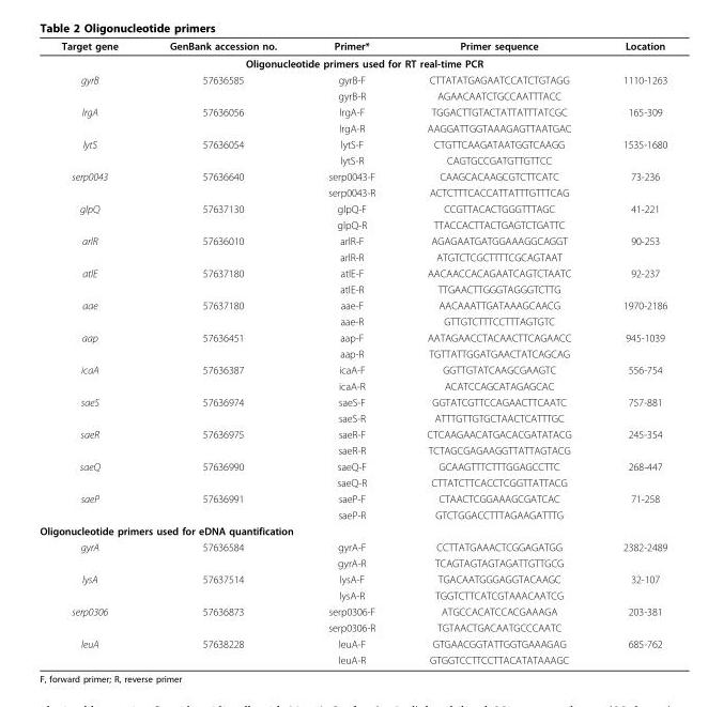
<table><thead><tr><td>Target gene</td><td>GenBank accession no.</td><td>Primer*</td><td>Primer sequence</td><td>Location</td></tr></thead><tbody><tr><td colspan="5">Oligonucleotide primers used for RT real-time PCR</td></tr><tr><td rowspan="2">gyrB</td><td>57636585</td><td>gyrB-F</td><td>CTTATATGAGAATCCATCTGTAGG</td><td>1110-1263</td></tr><tr><td></td><td>gyrB-R</td><td>AGAACAATCTGCCAATTTACC</td><td></td></tr><tr><td rowspan="2">lrgA</td><td>57636056</td><td>lrgA-F</td><td>TGGACTTGTACTATTATTTATCGC</td><td>165-309</td></tr><tr><td></td><td>lrgA-R</td><td>AAGGATTGGTAAAGAGTTAATGAC</td><td></td></tr><tr><td rowspan="2">lytS</td><td>57636054</td><td>lytS-F</td><td>CTGTTCAAGATAATGGTCAAGG</td><td>1535-1680</td></tr><tr><td></td><td>lytS-R</td><td>CAGTGCCGATGTTGTTCC</td><td></td></tr><tr><td rowspan="2">serp0043</td><td>57636640</td><td>serp0043-F</td><td>CAAGCACAAGCGTCTTCATC</td><td>73-236</td></tr><tr><td></td><td>serp0043-R</td><td>ACTCTTTCACCATTATTTGTTTCAG</td><td></td></tr><tr><td rowspan="2">glpQ</td><td>57637130</td><td>glpQ-F</td><td>CCGTTACACTGGGTTTAGC</td><td>41-221</td></tr><tr><td></td><td>glpQ-R</td><td>TTACCACTTACTGAGTCTGATTC</td><td></td></tr><tr><td rowspan="2">arlR</td><td>57636010</td><td>arlR-F</td><td>AGAGAATGATGGAAAGGCAGGT</td><td>90-253</td></tr><tr><td></td><td>arlR-R</td><td>ATGTCTCGCTTTTCGCAGTAAT</td><td></td></tr><tr><td rowspan="2">atlE</td><td>57637180</td><td>atlE-F</td><td>AACAACCACAGAATCAGTCTAATC</td><td>92-237</td></tr><tr><td></td><td>atlE-R</td><td>TTGAACTTGGGTAGGGTCTTG</td><td></td></tr><tr><td rowspan="2">aae</td><td>57637180</td><td>aae-F</td><td>AACAAATTGATAAAGCAACG</td><td>1970-2186</td></tr><tr><td></td><td>aae-R</td><td>GTTGTCTTTCCTTTAGTGTC</td><td></td></tr><tr><td rowspan="2">aap</td><td>57636451</td><td>aap-F</td><td>AATAGAACCTACAACTTCAGAACC</td><td>945-1039</td></tr><tr><td></td><td>aap-R</td><td>TGTTATTGGATGAACTATCAGCAG</td><td></td></tr><tr><td rowspan="2">icaA</td><td>57636387</td><td>icaA-F</td><td>GGTTGTATCAAGCGAAGTC</td><td>556-754</td></tr><tr><td></td><td>icaA-R</td><td>ACATCCAGCATAGAGCAC</td><td></td></tr><tr><td rowspan="2">saeS</td><td>57636974</td><td>saeS-F</td><td>GGTATCGTTCCAGAACTTCAATC</td><td>757-881</td></tr><tr><td></td><td>saeS-R</td><td>ATTTGTTGTGCTAACTCATTTGC</td><td></td></tr><tr><td rowspan="2">saeR</td><td>57636975</td><td>saeR-F</td><td>CTCAAGAACATGACACGATATACG</td><td>245-354</td></tr><tr><td></td><td>saeR-R</td><td>TCTAGCGAGAAGGTTATTAGTACG</td><td></td></tr><tr><td rowspan="2">saeQ</td><td>57636990</td><td>saeQ-F</td><td>GCAAGTTTCTTTGGAGCCTTC</td><td>268-447</td></tr><tr><td></td><td>saeQ-R</td><td>CTTATCTTCACCTCGGTTATTACG</td><td></td></tr><tr><td rowspan="2">saeP</td><td>57636991</td><td>saeP-F</td><td>CTAACTCGGAAAGCGATCAC</td><td>71-258</td></tr><tr><td></td><td>saeP-R</td><td>GTCTGGACCTTTAGAAGATTTG</td><td></td></tr><tr><td colspan="5">Oligonucleotide primers used for eDNA quantification</td></tr><tr><td rowspan="2">gyrA</td><td>57636584</td><td>gyrA-F</td><td>CCTTATGAAACTCGGAGATGG</td><td>2382-2489</td></tr><tr><td></td><td>gyrA-R</td><td>TCAGTAGTAGTAGATTGTTGCG</td><td></td></tr><tr><td rowspan="2">lysA</td><td>57637514</td><td>lysA-F</td><td>TGACAATGGGAGGTACAAGC</td><td>32-107</td></tr><tr><td></td><td>lysA-R</td><td>TGGTCTTCATCGTAAACAATCG</td><td></td></tr><tr><td rowspan="2">serp0306</td><td>57636873</td><td>serp0306-F</td><td>ATGCCACATCCACGAAAGA</td><td>203-381</td></tr><tr><td></td><td>serp0306-R</td><td>TGTAACTGACAATGCCCAATC</td><td></td></tr><tr><td rowspan="2">leuA</td><td>57638228</td><td>leuA-F</td><td>GTGAACGGTATTGGTGAAAGAG</td><td>685-762</td></tr><tr><td></td><td>leuA-R</td><td>GTGGTCCTTCCTTACATATAAAGC</td><td></td></tr></tbody></table>